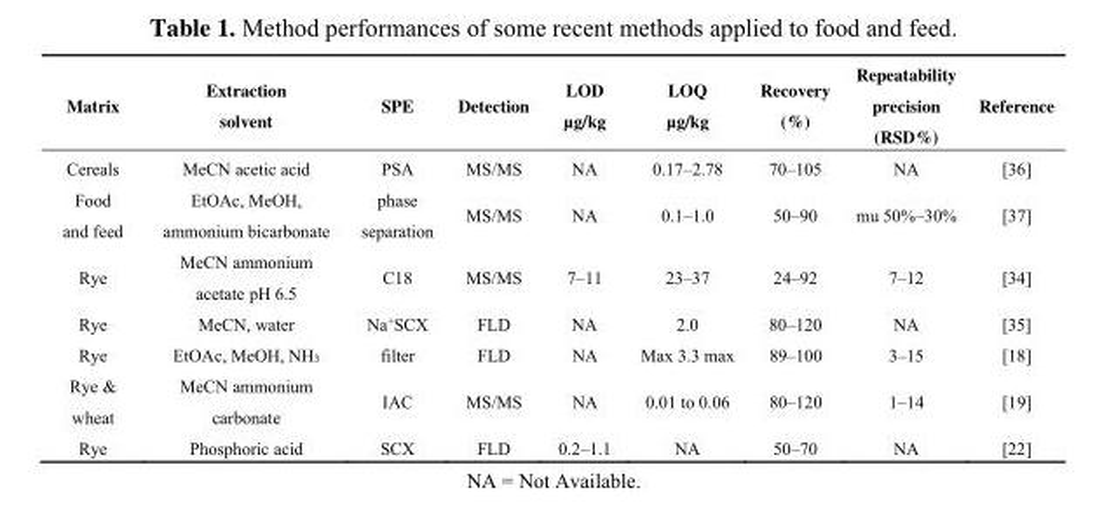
<table><thead><tr><td>Matrix</td><td>Extraction solvent</td><td>SPE</td><td>Detection</td><td>LOD µg/kg</td><td>LOQ µg/kg</td><td>Recovery (%)</td><td>Repeatability precision (RSD%)</td><td>Reference</td></tr></thead><tbody><tr><td>Cereals</td><td>MeCN acetic acid</td><td>PSA</td><td>MS/MS</td><td>NA</td><td>0.17–2.78</td><td>70–105</td><td>NA</td><td>[36]</td></tr><tr><td>Food and feed</td><td>EtOAc, MeOH, ammonium bicarbonate</td><td>phase separation</td><td>MS/MS</td><td>NA</td><td>0.1–1.0</td><td>50–90</td><td>mu 50%–30%</td><td>[37]</td></tr><tr><td>Rye</td><td>MeCN ammonium acetate pH 6.5</td><td>C18</td><td>MS/MS</td><td>7–11</td><td>23–37</td><td>24–92</td><td>7–12</td><td>[34]</td></tr><tr><td>Rye</td><td>MeCN, water</td><td>Na<sup>+</sup>SCX</td><td>FLD</td><td>NA</td><td>2.0</td><td>80–120</td><td>NA</td><td>[35]</td></tr><tr><td>Rye</td><td>EtOAc, MeOH, NH<sub>3</sub></td><td>filter</td><td>FLD</td><td>NA</td><td>Max 3.3 max</td><td>89–100</td><td>3–15</td><td>[18]</td></tr><tr><td>Rye &amp; wheat</td><td>MeCN ammonium carbonate</td><td>IAC</td><td>MS/MS</td><td>NA</td><td>0.01 to 0.06</td><td>80–120</td><td>1–14</td><td>[19]</td></tr><tr><td>Rye</td><td>Phosphoric acid</td><td>SCX</td><td>FLD</td><td>0.2–1.1</td><td>NA</td><td>50–70</td><td>NA</td><td>[22]</td></tr></tbody></table>